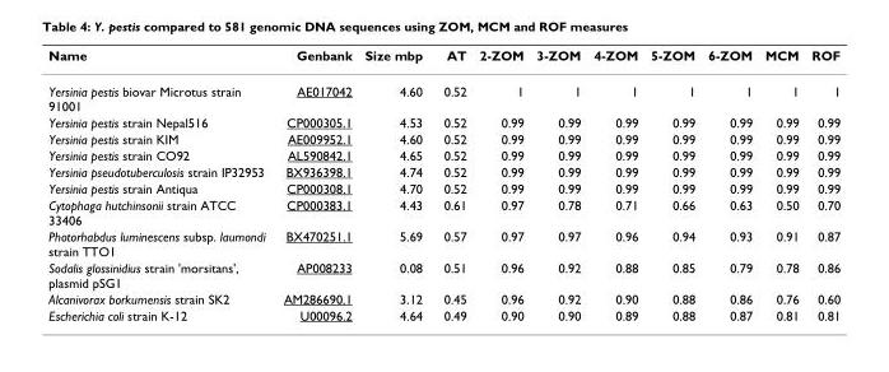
<table><thead><tr><td>Name</td><td>Genbank</td><td>Size mbp</td><td>AT</td><td>2-ZOM</td><td>3-ZOM</td><td>4-ZOM</td><td>5-ZOM</td><td>6-ZOM</td><td>MCM</td><td>ROF</td></tr></thead><tbody><tr><td>Yersinia pestis biovar Microtus strain 91001</td><td>AE017042</td><td>4.60</td><td>0.52</td><td>1</td><td>1</td><td>1</td><td>1</td><td>1</td><td>1</td><td>1</td></tr><tr><td>Yersinia pestis strain Nepal516</td><td>CP000305.1</td><td>4.53</td><td>0.52</td><td>0.99</td><td>0.99</td><td>0.99</td><td>0.99</td><td>0.99</td><td>0.99</td><td>0.99</td></tr><tr><td>Yersinia pestis strain KIM</td><td>AE009952.1</td><td>4.60</td><td>0.52</td><td>0.99</td><td>0.99</td><td>0.99</td><td>0.99</td><td>0.99</td><td>0.99</td><td>0.99</td></tr><tr><td>Yersinia pestis strain CO92</td><td>AL590842.1</td><td>4.65</td><td>0.52</td><td>0.99</td><td>0.99</td><td>0.99</td><td>0.99</td><td>0.99</td><td>0.99</td><td>0.99</td></tr><tr><td>Yersinia pseudotuberculosis strain IP32953</td><td>BX936398.1</td><td>4.74</td><td>0.52</td><td>0.99</td><td>0.99</td><td>0.99</td><td>0.99</td><td>0.99</td><td>0.99</td><td>0.99</td></tr><tr><td>Yersinia pestis strain Antiqua</td><td>CP000308.1</td><td>4.70</td><td>0.52</td><td>0.99</td><td>0.99</td><td>0.99</td><td>0.99</td><td>0.99</td><td>0.99</td><td>0.99</td></tr><tr><td>Cytophaga hutchinsonii strain ATCC 33406</td><td>CP000383.1</td><td>4.43</td><td>0.61</td><td>0.97</td><td>0.78</td><td>0.71</td><td>0.66</td><td>0.63</td><td>0.50</td><td>0.70</td></tr><tr><td>Photorhabdus luminescens subsp. laumondi strain TTO1</td><td>BX470251.1</td><td>5.69</td><td>0.57</td><td>0.97</td><td>0.97</td><td>0.96</td><td>0.94</td><td>0.93</td><td>0.91</td><td>0.87</td></tr><tr><td>Sodalis glossinidius strain &#x27;morsitans&#x27;, plasmid pSG1</td><td>AP008233</td><td>0.08</td><td>0.51</td><td>0.96</td><td>0.92</td><td>0.88</td><td>0.85</td><td>0.79</td><td>0.78</td><td>0.86</td></tr><tr><td>Alcanivorax borkumensis strain SK2</td><td>AM286690.1</td><td>3.12</td><td>0.45</td><td>0.96</td><td>0.92</td><td>0.90</td><td>0.88</td><td>0.86</td><td>0.76</td><td>0.60</td></tr><tr><td>Escherichia coli strain K-12</td><td>U00096.2</td><td>4.64</td><td>0.49</td><td>0.90</td><td>0.90</td><td>0.89</td><td>0.88</td><td>0.87</td><td>0.81</td><td>0.81</td></tr></tbody></table>